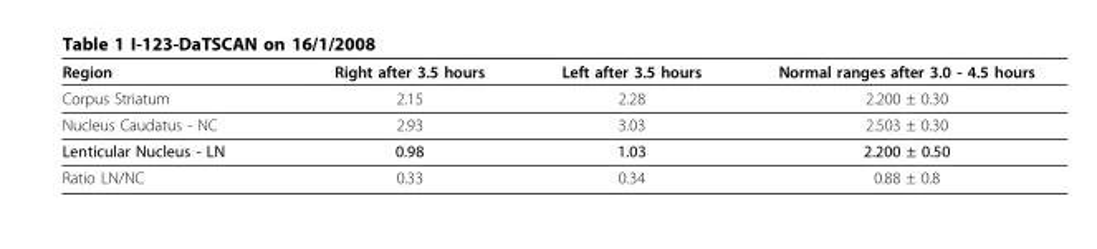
<table><thead><tr><td>Region</td><td>Right after 3.5 hours</td><td>Left after 3.5 hours</td><td>Normal ranges after 3.0 - 4.5 hours</td></tr></thead><tbody><tr><td>Corpus Striatum</td><td>2.15</td><td>2.28</td><td>2.200 ± 0.30</td></tr><tr><td>Nucleus Caudatus - NC</td><td>2.93</td><td>3.03</td><td>2.503 ± 0.30</td></tr><tr><td>Lenticular Nucleus - LN</td><td>0.98</td><td>1.03</td><td>2.200 ± 0.50</td></tr><tr><td>Ratio LN/NC</td><td>0.33</td><td>0.34</td><td>0.88 ± 0.8</td></tr></tbody></table>